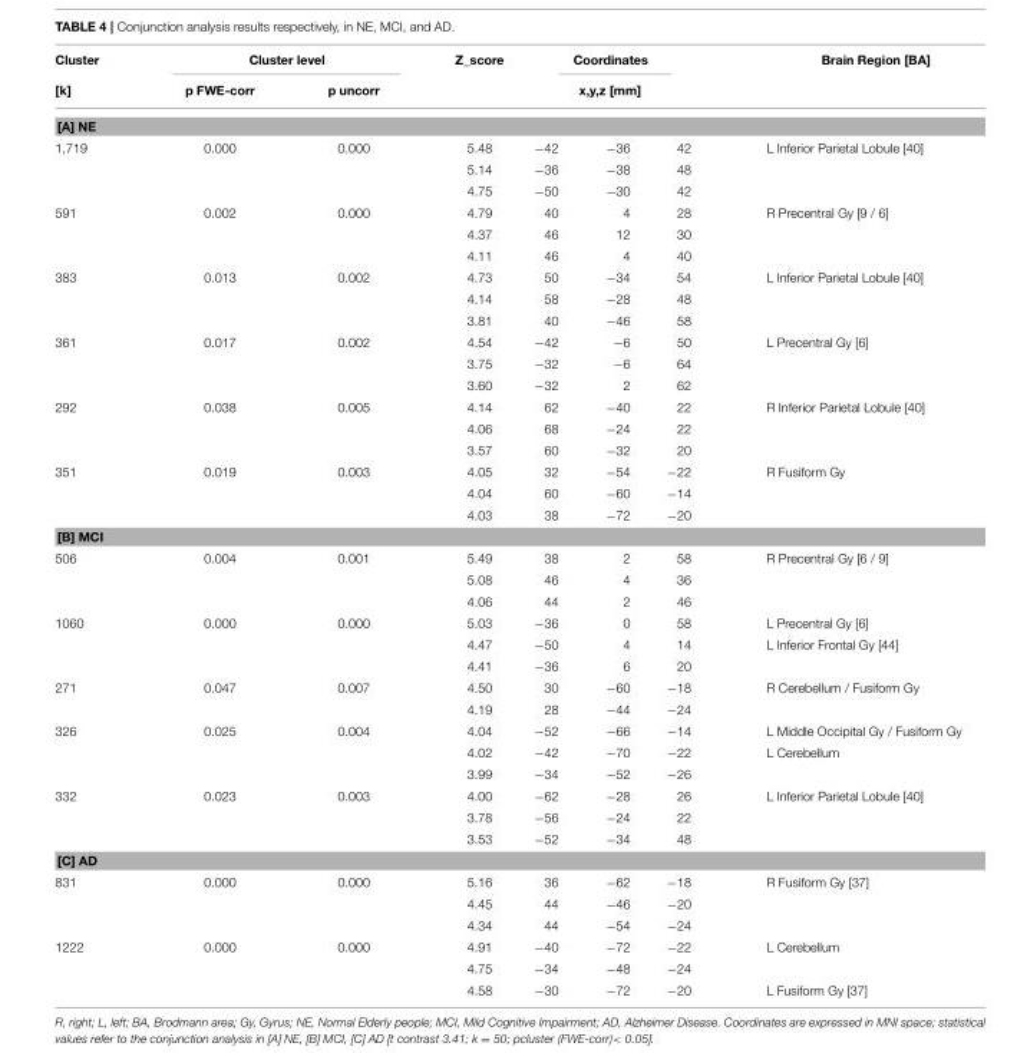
<table><thead><tr><td rowspan="2">Cluster [k]</td><td colspan="2">Cluster level</td><td rowspan="2">Z_score</td><td rowspan="2" colspan="3">Coordinates x,y,z [mm]</td><td rowspan="2">Brain Region [BA]</td></tr><tr><td>p FWE-corr</td><td>p uncorr</td></tr><tr><td colspan="8">[A] NE</td></tr><tr><td>1,719</td><td>0.000</td><td>0.000</td><td>5.48</td><td>−42</td><td>−36</td><td>42</td><td>L Inferior Parietal Lobule [40]</td></tr></thead><tbody><tr><td></td><td></td><td></td><td>5.14</td><td>−36</td><td>−38</td><td>48</td><td></td></tr><tr><td></td><td></td><td></td><td>4.75</td><td>−50</td><td>−30</td><td>42</td><td></td></tr><tr><td rowspan="3">591</td><td>0.002</td><td>0.000</td><td>4.79</td><td>40</td><td>4</td><td>28</td><td>R Precentral Gy [9 / 6]</td></tr><tr><td></td><td></td><td>4.37</td><td>46</td><td>12</td><td>30</td><td></td></tr><tr><td></td><td></td><td>4.11</td><td>46</td><td>4</td><td>40</td><td></td></tr><tr><td rowspan="3">383</td><td>0.013</td><td>0.002</td><td>4.73</td><td>50</td><td>−34</td><td>54</td><td>L Inferior Parietal Lobule [40]</td></tr><tr><td></td><td></td><td>4.14</td><td>58</td><td>−28</td><td>48</td><td></td></tr><tr><td></td><td></td><td>3.81</td><td>40</td><td>−46</td><td>58</td><td></td></tr><tr><td rowspan="3">361</td><td>0.017</td><td>0.002</td><td>4.54</td><td>−42</td><td>−6</td><td>50</td><td>L Precentral Gy [6]</td></tr><tr><td></td><td></td><td>3.75</td><td>−32</td><td>−6</td><td>64</td><td></td></tr><tr><td></td><td></td><td>3.60</td><td>−32</td><td>2</td><td>62</td><td></td></tr><tr><td rowspan="3">292</td><td>0.038</td><td>0.005</td><td>4.14</td><td>62</td><td>−40</td><td>22</td><td>R Inferior Parietal Lobule [40]</td></tr><tr><td></td><td></td><td>4.06</td><td>68</td><td>−24</td><td>22</td><td></td></tr><tr><td></td><td></td><td>3.57</td><td>60</td><td>−32</td><td>20</td><td></td></tr><tr><td rowspan="3">351</td><td>0.019</td><td>0.003</td><td>4.05</td><td>32</td><td>−54</td><td>−22</td><td>R Fusiform Gy</td></tr><tr><td></td><td></td><td>4.04</td><td>60</td><td>−60</td><td>−14</td><td></td></tr><tr><td></td><td></td><td>4.03</td><td>38</td><td>−72</td><td>−20</td><td></td></tr><tr><td colspan="8">[B] MCI</td></tr><tr><td rowspan="3">506</td><td>0.004</td><td>0.001</td><td>5.49</td><td>38</td><td>2</td><td>58</td><td>R Precentral Gy [6 / 9]</td></tr><tr><td></td><td></td><td>5.08</td><td>46</td><td>4</td><td>36</td><td></td></tr><tr><td></td><td></td><td>4.06</td><td>44</td><td>2</td><td>46</td><td></td></tr><tr><td rowspan="3">1060</td><td>0.000</td><td>0.000</td><td>5.03</td><td>−36</td><td>0</td><td>58</td><td>L Precentral Gy [6]</td></tr><tr><td></td><td></td><td>4.47</td><td>−50</td><td>4</td><td>14</td><td>L Inferior Frontal Gy [44]</td></tr><tr><td></td><td></td><td>4.41</td><td>−36</td><td>6</td><td>20</td><td></td></tr><tr><td rowspan="2">271</td><td>0.047</td><td>0.007</td><td>4.50</td><td>30</td><td>−60</td><td>−18</td><td>R Cerebellum / Fusiform Gy</td></tr><tr><td></td><td></td><td>4.19</td><td>28</td><td>−44</td><td>−24</td><td></td></tr><tr><td rowspan="3">326</td><td>0.025</td><td>0.004</td><td>4.04</td><td>−52</td><td>−66</td><td>−14</td><td>L Middle Occipital Gy / Fusiform Gy</td></tr><tr><td></td><td></td><td>4.02</td><td>−42</td><td>−70</td><td>−22</td><td>L Cerebellum</td></tr><tr><td></td><td></td><td>3.99</td><td>−34</td><td>−52</td><td>−26</td><td></td></tr><tr><td rowspan="3">332</td><td>0.023</td><td>0.003</td><td>4.00</td><td>−62</td><td>−28</td><td>26</td><td>L Inferior Parietal Lobule [40]</td></tr><tr><td></td><td></td><td>3.78</td><td>−56</td><td>−24</td><td>22</td><td></td></tr><tr><td></td><td></td><td>3.53</td><td>−52</td><td>−34</td><td>48</td><td></td></tr><tr><td colspan="8">[C] AD</td></tr><tr><td rowspan="3">831</td><td>0.000</td><td>0.000</td><td>5.16</td><td>36</td><td>−62</td><td>−18</td><td>R Fusiform Gy [37]</td></tr><tr><td></td><td></td><td>4.45</td><td>44</td><td>−46</td><td>−20</td><td></td></tr><tr><td></td><td></td><td>4.34</td><td>44</td><td>−54</td><td>−24</td><td></td></tr><tr><td rowspan="3">1222</td><td>0.000</td><td>0.000</td><td>4.91</td><td>−40</td><td>−72</td><td>−22</td><td>L Cerebellum</td></tr><tr><td></td><td></td><td>4.75</td><td>−34</td><td>−48</td><td>−24</td><td></td></tr><tr><td></td><td></td><td>4.58</td><td>−30</td><td>−72</td><td>−20</td><td>L Fusiform Gy [37]</td></tr></tbody></table>